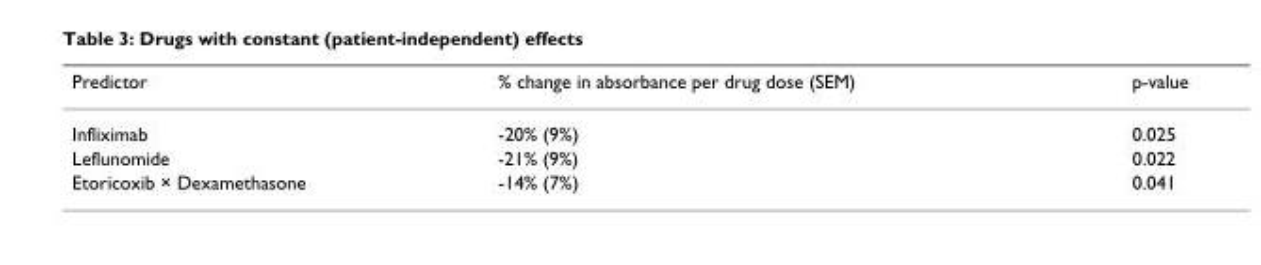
<table><thead><tr><td>Predictor</td><td>% change in absorbance per drug dose (SEM)</td><td>p-value</td></tr></thead><tbody><tr><td>Infliximab</td><td>-20% (9%)</td><td>0.025</td></tr><tr><td>Leflunomide</td><td>-21% (9%)</td><td>0.022</td></tr><tr><td>Etoricoxib × Dexamethasone</td><td>-14% (7%)</td><td>0.041</td></tr></tbody></table>